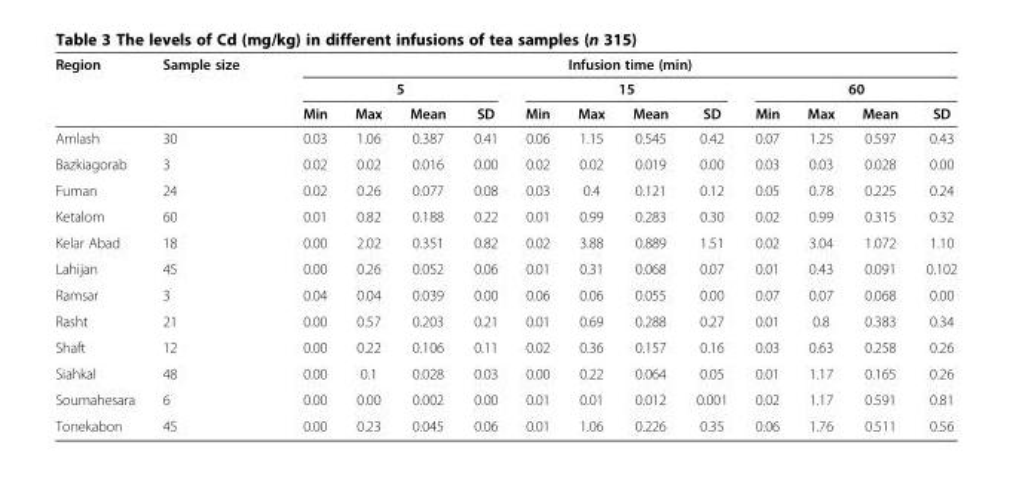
<table><thead><tr><td rowspan="3">Region</td><td rowspan="3">Sample size</td><td colspan="12">Infusion time (min)</td></tr><tr><td colspan="4">5</td><td colspan="4">15</td><td colspan="4">60</td></tr><tr><td>Min</td><td>Max</td><td>Mean</td><td>SD</td><td>Min</td><td>Max</td><td>Mean</td><td>SD</td><td>Min</td><td>Max</td><td>Mean</td><td>SD</td></tr></thead><tbody><tr><td>Amlash</td><td>30</td><td>0.03</td><td>1.06</td><td>0.387</td><td>0.41</td><td>0.06</td><td>1.15</td><td>0.545</td><td>0.42</td><td>0.07</td><td>1.25</td><td>0.597</td><td>0.43</td></tr><tr><td>Bazkiagorab</td><td>3</td><td>0.02</td><td>0.02</td><td>0.016</td><td>0.00</td><td>0.02</td><td>0.02</td><td>0.019</td><td>0.00</td><td>0.03</td><td>0.03</td><td>0.028</td><td>0.00</td></tr><tr><td>Fuman</td><td>24</td><td>0.02</td><td>0.26</td><td>0.077</td><td>0.08</td><td>0.03</td><td>0.4</td><td>0.121</td><td>0.12</td><td>0.05</td><td>0.78</td><td>0.225</td><td>0.24</td></tr><tr><td>Ketalom</td><td>60</td><td>0.01</td><td>0.82</td><td>0.188</td><td>0.22</td><td>0.01</td><td>0.99</td><td>0.283</td><td>0.30</td><td>0.02</td><td>0.99</td><td>0.315</td><td>0.32</td></tr><tr><td>Kelar Abad</td><td>18</td><td>0.00</td><td>2.02</td><td>0.351</td><td>0.82</td><td>0.02</td><td>3.88</td><td>0.889</td><td>1.51</td><td>0.02</td><td>3.04</td><td>1.072</td><td>1.10</td></tr><tr><td>Lahijan</td><td>45</td><td>0.00</td><td>0.26</td><td>0.052</td><td>0.06</td><td>0.01</td><td>0.31</td><td>0.068</td><td>0.07</td><td>0.01</td><td>0.43</td><td>0.091</td><td>0.102</td></tr><tr><td>Ramsar</td><td>3</td><td>0.04</td><td>0.04</td><td>0.039</td><td>0.00</td><td>0.06</td><td>0.06</td><td>0.055</td><td>0.00</td><td>0.07</td><td>0.07</td><td>0.068</td><td>0.00</td></tr><tr><td>Rasht</td><td>21</td><td>0.00</td><td>0.57</td><td>0.203</td><td>0.21</td><td>0.01</td><td>0.69</td><td>0.288</td><td>0.27</td><td>0.01</td><td>0.8</td><td>0.383</td><td>0.34</td></tr><tr><td>Shaft</td><td>12</td><td>0.00</td><td>0.22</td><td>0.106</td><td>0.11</td><td>0.02</td><td>0.36</td><td>0.157</td><td>0.16</td><td>0.03</td><td>0.63</td><td>0.258</td><td>0.26</td></tr><tr><td>Siahkal</td><td>48</td><td>0.00</td><td>0.1</td><td>0.028</td><td>0.03</td><td>0.00</td><td>0.22</td><td>0.064</td><td>0.05</td><td>0.01</td><td>1.17</td><td>0.165</td><td>0.26</td></tr><tr><td>Soumahesara</td><td>6</td><td>0.00</td><td>0.00</td><td>0.002</td><td>0.00</td><td>0.01</td><td>0.01</td><td>0.012</td><td>0.001</td><td>0.02</td><td>1.17</td><td>0.591</td><td>0.81</td></tr><tr><td>Tonekabon</td><td>45</td><td>0.00</td><td>0.23</td><td>0.045</td><td>0.06</td><td>0.01</td><td>1.06</td><td>0.226</td><td>0.35</td><td>0.06</td><td>1.76</td><td>0.511</td><td>0.56</td></tr></tbody></table>